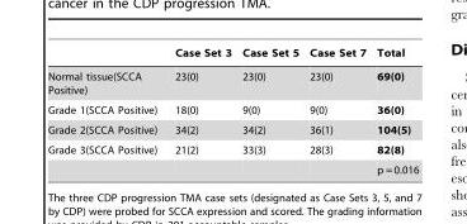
<table><thead><tr><td></td><td>Case Set 3</td><td>Case Set 5</td><td>Case Set 7</td><td>Total</td></tr></thead><tbody><tr><td>Normal tissue(SCCA Positive)</td><td>23(0)</td><td>23(0)</td><td>23(0)</td><td>69(0)</td></tr><tr><td>Grade 1(SCCA Positive)</td><td>18(0)</td><td>9(0)</td><td>9(0)</td><td>36(0)</td></tr><tr><td>Grade 2(SCCA Positive)</td><td>34(2)</td><td>34(2)</td><td>36(1)</td><td>104(5)</td></tr><tr><td rowspan="2">Grade 3(SCCA Positive)</td><td>21(2)</td><td>33(3)</td><td>28(3)</td><td>82(8)</td></tr><tr><td></td><td></td><td></td><td>p = 0.016</td></tr></tbody></table>